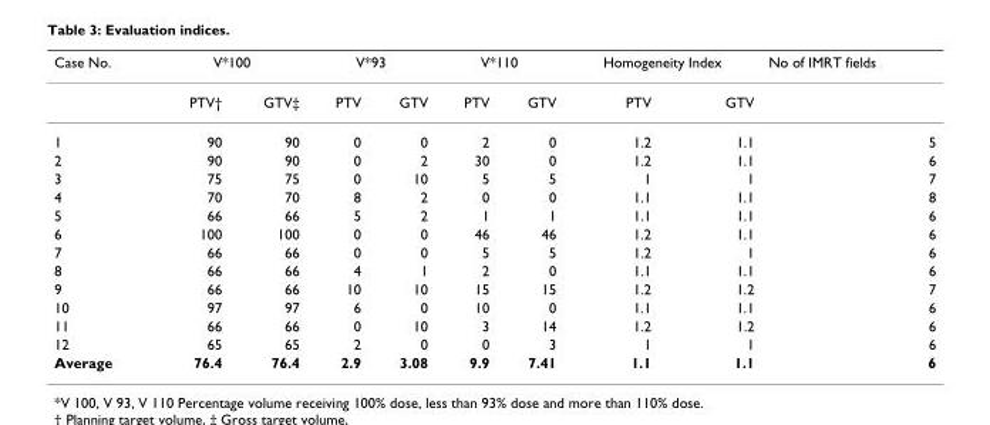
<table><thead><tr><td rowspan="2">Case No.</td><td colspan="2">V*100</td><td colspan="2">V*93</td><td colspan="2">V*110</td><td colspan="2">Homogeneity Index</td><td rowspan="2">No of IMRT fields</td></tr><tr><td>PTV†</td><td>GTV‡</td><td>PTV</td><td>GTV</td><td>PTV</td><td>GTV</td><td>PTV</td><td>GTV</td></tr></thead><tbody><tr><td>1</td><td>90</td><td>90</td><td>0</td><td>0</td><td>2</td><td>0</td><td>1.2</td><td>1.1</td><td>5</td></tr><tr><td>2</td><td>90</td><td>90</td><td>0</td><td>2</td><td>30</td><td>0</td><td>1.2</td><td>1.1</td><td>6</td></tr><tr><td>3</td><td>75</td><td>75</td><td>0</td><td>10</td><td>5</td><td>5</td><td>1</td><td>1</td><td>7</td></tr><tr><td>4</td><td>70</td><td>70</td><td>8</td><td>2</td><td>0</td><td>0</td><td>1.1</td><td>1.1</td><td>8</td></tr><tr><td>5</td><td>66</td><td>66</td><td>5</td><td>2</td><td>1</td><td>1</td><td>1.1</td><td>1.1</td><td>6</td></tr><tr><td>6</td><td>100</td><td>100</td><td>0</td><td>0</td><td>46</td><td>46</td><td>1.2</td><td>1.1</td><td>6</td></tr><tr><td>7</td><td>66</td><td>66</td><td>0</td><td>0</td><td>5</td><td>5</td><td>1.2</td><td>1</td><td>6</td></tr><tr><td>8</td><td>66</td><td>66</td><td>4</td><td>1</td><td>2</td><td>0</td><td>1.1</td><td>1.1</td><td>6</td></tr><tr><td>9</td><td>66</td><td>66</td><td>10</td><td>10</td><td>15</td><td>15</td><td>1.2</td><td>1.2</td><td>7</td></tr><tr><td>10</td><td>97</td><td>97</td><td>6</td><td>0</td><td>10</td><td>0</td><td>1.1</td><td>1.1</td><td>6</td></tr><tr><td>11</td><td>66</td><td>66</td><td>0</td><td>10</td><td>3</td><td>14</td><td>1.2</td><td>1.2</td><td>6</td></tr><tr><td>12</td><td>65</td><td>65</td><td>2</td><td>0</td><td>0</td><td>3</td><td>1</td><td>1</td><td>6</td></tr><tr><td>Average</td><td>76.4</td><td>76.4</td><td>2.9</td><td>3.08</td><td>9.9</td><td>7.41</td><td>1.1</td><td>1.1</td><td>6</td></tr></tbody></table>